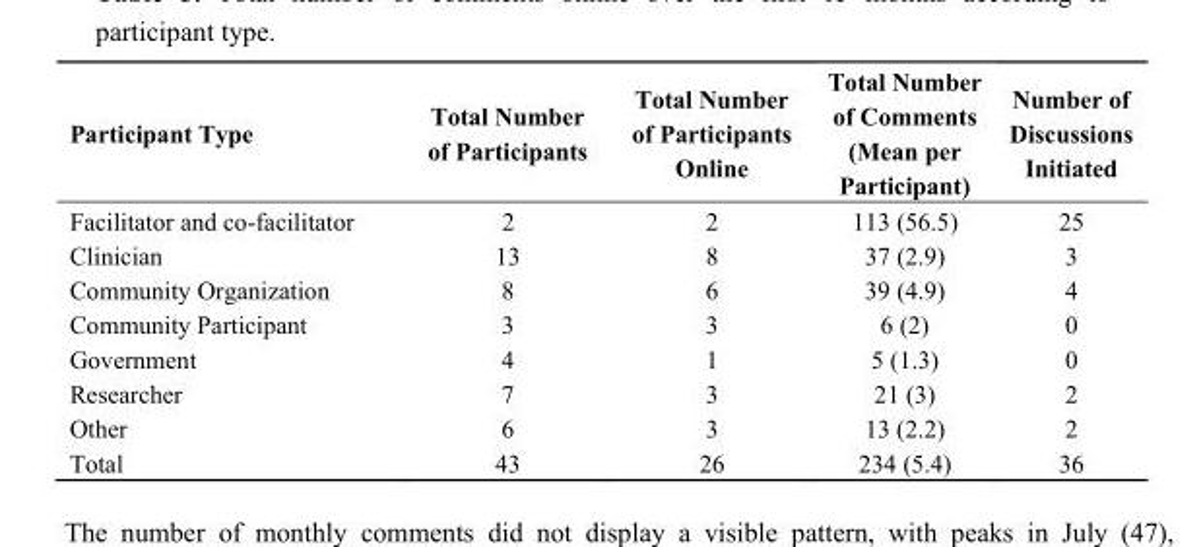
<table><thead><tr><td>Participant Type</td><td>Total Number of Participants</td><td>Total Number of Participants Online</td><td>Total Number of Comments (Mean per Participant)</td><td>Number of Discussions Initiated</td></tr></thead><tbody><tr><td>Facilitator and co-facilitator</td><td>2</td><td>2</td><td>113 (56.5)</td><td>25</td></tr><tr><td>Clinician</td><td>13</td><td>8</td><td>37 (2.9)</td><td>3</td></tr><tr><td>Community Organization</td><td>8</td><td>6</td><td>39 (4.9)</td><td>4</td></tr><tr><td>Community Participant</td><td>3</td><td>3</td><td>6 (2)</td><td>0</td></tr><tr><td>Government</td><td>4</td><td>1</td><td>5 (1.3)</td><td>0</td></tr><tr><td>Researcher</td><td>7</td><td>3</td><td>21 (3)</td><td>2</td></tr><tr><td>Other</td><td>6</td><td>3</td><td>13 (2.2)</td><td>2</td></tr><tr><td>Total</td><td>43</td><td>26</td><td>234 (5.4)</td><td>36</td></tr></tbody></table>